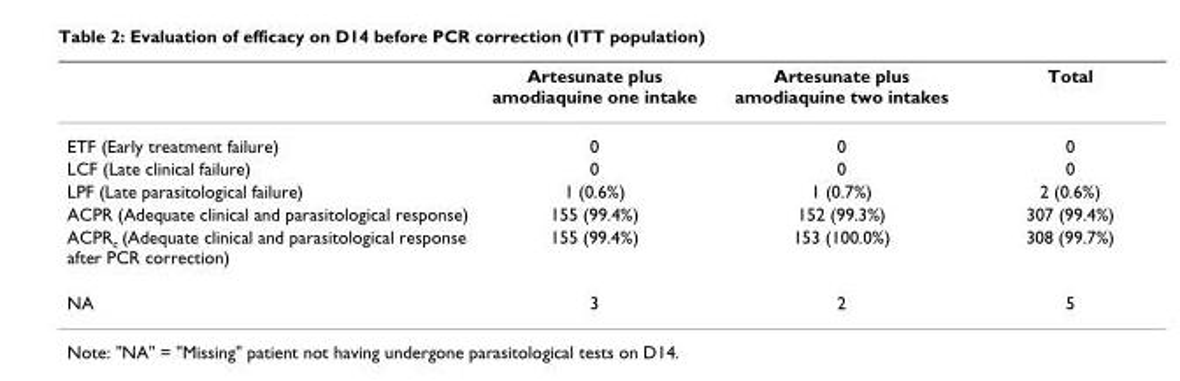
<table><thead><tr><td></td><td>Artesunate plus amodiaquine one intake</td><td>Artesunate plus amodiaquine two intakes</td><td>Total</td></tr></thead><tbody><tr><td>ETF (Early treatment failure)</td><td>0</td><td>0</td><td>0</td></tr><tr><td>LCF (Late clinical failure)</td><td>0</td><td>0</td><td>0</td></tr><tr><td>LPF (Late parasitological failure)</td><td>1 (0.6%)</td><td>1 (0.7%)</td><td>2 (0.6%)</td></tr><tr><td>ACPR (Adequate clinical and parasitological response)</td><td>155 (99.4%)</td><td>152 (99.3%)</td><td>307 (99.4%)</td></tr><tr><td>ACPR<sub>c</sub> (Adequate clinical and parasitological response after PCR correction)</td><td>155 (99.4%)</td><td>153 (100.0%)</td><td>308 (99.7%)</td></tr><tr><td>NA</td><td>3</td><td>2</td><td>5</td></tr></tbody></table>